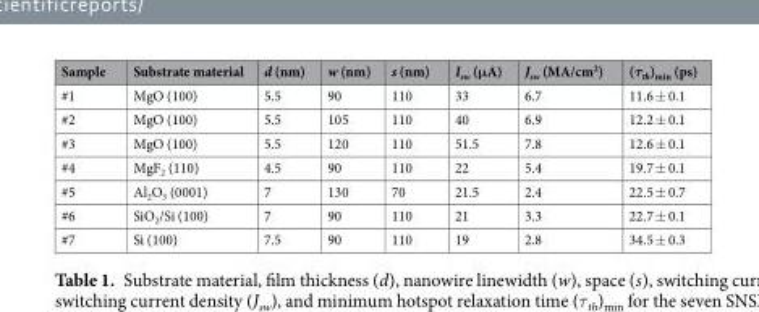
<table><thead><tr><td>Sample</td><td>Substrate material</td><td>d (nm)</td><td>w (nm)</td><td>s (nm)</td><td>I<sub>sw</sub> (μA)</td><td>J<sub>sw</sub> (MA/cm<sup>2</sup>)</td><td>(τ<sub>th</sub>)<sub>min</sub> (ps)</td></tr></thead><tbody><tr><td>#1</td><td>MgO (100)</td><td>5.5</td><td>90</td><td>110</td><td>33</td><td>6.7</td><td>11.6 ± 0.1</td></tr><tr><td>#2</td><td>MgO (100)</td><td>5.5</td><td>105</td><td>110</td><td>40</td><td>6.9</td><td>12.2 ± 0.1</td></tr><tr><td>#3</td><td>MgO (100)</td><td>5.5</td><td>120</td><td>110</td><td>51.5</td><td>7.8</td><td>12.6 ± 0.1</td></tr><tr><td>#4</td><td>MgF<sub>2</sub> (110)</td><td>4.5</td><td>90</td><td>110</td><td>22</td><td>5.4</td><td>19.7 ± 0.1</td></tr><tr><td>#5</td><td>Al<sub>2</sub>O<sub>3</sub> (0001)</td><td>7</td><td>130</td><td>70</td><td>21.5</td><td>2.4</td><td>22.5 ± 0.7</td></tr><tr><td>#6</td><td>SiO<sub>2</sub>/Si (100)</td><td>7</td><td>90</td><td>110</td><td>21</td><td>3.3</td><td>22.7 ± 0.1</td></tr><tr><td>#7</td><td>Si (100)</td><td>7.5</td><td>90</td><td>110</td><td>19</td><td>2.8</td><td>34.5 ± 0.3</td></tr></tbody></table>